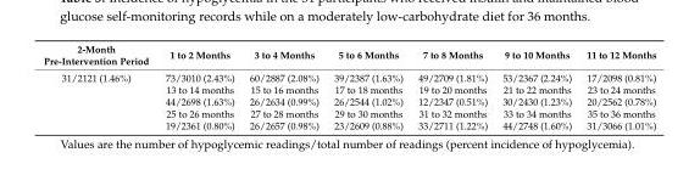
<table><thead><tr><td>2-Month Pre-Intervention Period</td><td>1 to 2 Months</td><td>3 to 4 Months</td><td>5 to 6 Months</td><td>7 to 8 Months</td><td>9 to 10 Months</td><td>11 to 12 Months</td></tr></thead><tbody><tr><td rowspan="5">31/2121 (1.46%)</td><td>73/3010 (2.43%)</td><td>60/2887 (2.08%)</td><td>39/2387 (1.63%)</td><td>49/2709 (1.81%)</td><td>53/2367 (2.24%)</td><td>17/2098 (0.81%)</td></tr><tr><td>13 to 14 months</td><td>15 to 16 months</td><td>17 to 18 months</td><td>19 to 20 months</td><td>21 to 22 months</td><td>23 to 24 months</td></tr><tr><td>44/2698 (1.63%)</td><td>26/2634 (0.99%)</td><td>26/2544 (1.02%)</td><td>12/2347 (0.51%)</td><td>30/2430 (1.23%)</td><td>20/2562 (0.78%)</td></tr><tr><td>25 to 26 months</td><td>27 to 28 months</td><td>29 to 30 months</td><td>31 to 32 months</td><td>33 to 34 months</td><td>35 to 36 months</td></tr><tr><td>19/2361 (0.80%)</td><td>26/2657 (0.98%)</td><td>23/2609 (0.88%)</td><td>33/2711 (1.22%)</td><td>44/2748 (1.60%)</td><td>31/3066 (1.01%)</td></tr></tbody></table>